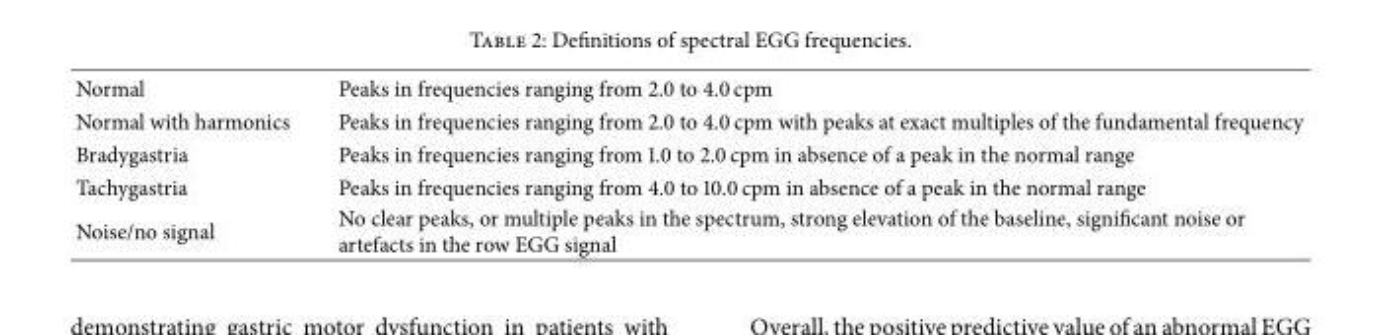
<table><tbody><tr><td>Normal</td><td>Peaks in frequencies ranging from 2.0 to 4.0 cpm</td></tr><tr><td>Normal with harmonics</td><td>Peaks in frequencies ranging from 2.0 to 4.0 cpm with peaks at exact multiples of the fundamental frequency</td></tr><tr><td>Bradygastria</td><td>Peaks in frequencies ranging from 1.0 to 2.0 cpm in absence of a peak in the normal range</td></tr><tr><td>Tachygastria</td><td>Peaks in frequencies ranging from 4.0 to 10.0 cpm in absence of a peak in the normal range</td></tr><tr><td>Noise/no signal</td><td>No clear peaks, or multiple peaks in the spectrum, strong elevation of the baseline, significant noise or artefacts in the row EGG signal</td></tr></tbody></table>